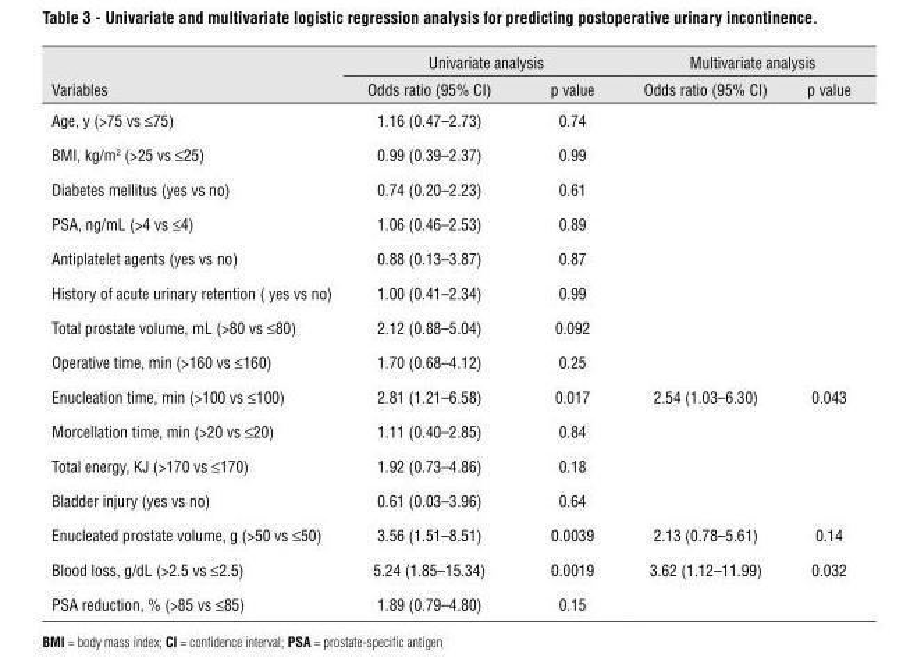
<table><thead><tr><td rowspan="2">Variables</td><td colspan="2">Univariate analysis</td><td colspan="2">Multivariate analysis</td></tr><tr><td>Odds ratio (95% CI)</td><td>p value</td><td>Odds ratio (95% CI)</td><td>p value</td></tr></thead><tbody><tr><td>Age, y (&gt;75 vs ≤75)</td><td>1.16 (0.47–2.73)</td><td>0.74</td><td></td><td></td></tr><tr><td>BMI, kg/m<sup>2</sup> (&gt;25 vs ≤25)</td><td>0.99 (0.39–2.37)</td><td>0.99</td><td></td><td></td></tr><tr><td>Diabetes mellitus (yes vs no)</td><td>0.74 (0.20–2.23)</td><td>0.61</td><td></td><td></td></tr><tr><td>PSA, ng/mL (&gt;4 vs ≤4)</td><td>1.06 (0.46–2.53)</td><td>0.89</td><td></td><td></td></tr><tr><td>Antiplatelet agents (yes vs no)</td><td>0.88 (0.13–3.87)</td><td>0.87</td><td></td><td></td></tr><tr><td>History of acute urinary retention ( yes vs no)</td><td>1.00 (0.41–2.34)</td><td>0.99</td><td></td><td></td></tr><tr><td>Total prostate volume, mL (&gt;80 vs ≤80)</td><td>2.12 (0.88–5.04)</td><td>0.092</td><td></td><td></td></tr><tr><td>Operative time, min (&gt;160 vs ≤160)</td><td>1.70 (0.68–4.12)</td><td>0.25</td><td></td><td></td></tr><tr><td>Enucleation time, min (&gt;100 vs ≤100)</td><td>2.81 (1.21–6.58)</td><td>0.017</td><td>2.54 (1.03–6.30)</td><td>0.043</td></tr><tr><td>Morcellation time, min (&gt;20 vs ≤20)</td><td>1.11 (0.40–2.85)</td><td>0.84</td><td></td><td></td></tr><tr><td>Total energy, KJ (&gt;170 vs ≤170)</td><td>1.92 (0.73–4.86)</td><td>0.18</td><td></td><td></td></tr><tr><td>Bladder injury (yes vs no)</td><td>0.61 (0.03–3.96)</td><td>0.64</td><td></td><td></td></tr><tr><td>Enucleated prostate volume, g (&gt;50 vs ≤50)</td><td>3.56 (1.51–8.51)</td><td>0.0039</td><td>2.13 (0.78–5.61)</td><td>0.14</td></tr><tr><td>Blood loss, g/dL (&gt;2.5 vs ≤2.5)</td><td>5.24 (1.85–15.34)</td><td>0.0019</td><td>3.62 (1.12–11.99)</td><td>0.032</td></tr><tr><td>PSA reduction, % (&gt;85 vs ≤85)</td><td>1.89 (0.79–4.80)</td><td>0.15</td><td></td><td></td></tr></tbody></table>